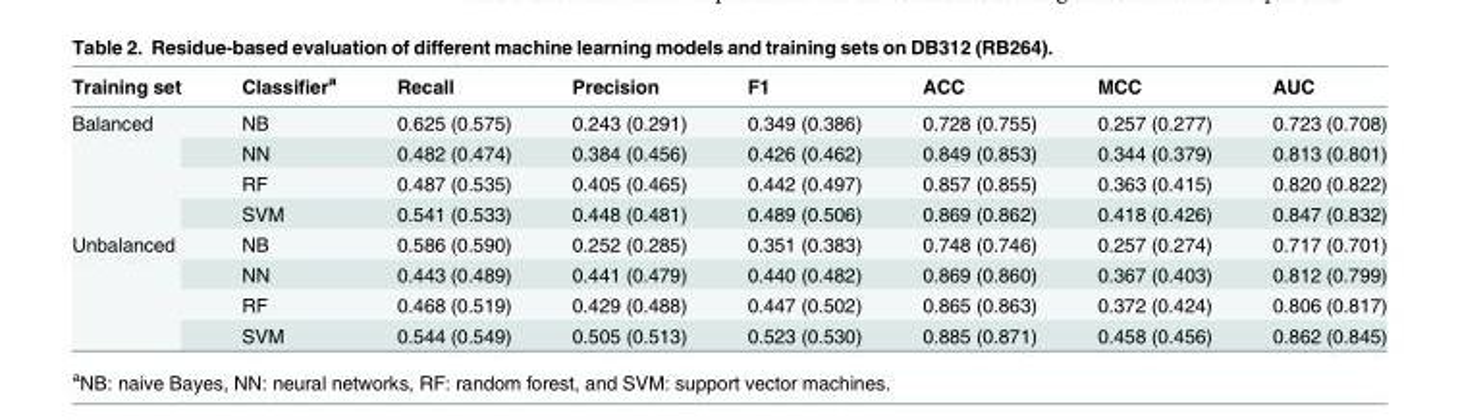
<table><thead><tr><td>Training set</td><td>Classifier<sup>a</sup></td><td>Recall</td><td>Precision</td><td>F1</td><td>ACC</td><td>MCC</td><td>AUC</td></tr></thead><tbody><tr><td rowspan="4">Balanced</td><td>NB</td><td>0.625 (0.575)</td><td>0.243 (0.291)</td><td>0.349 (0.386)</td><td>0.728 (0.755)</td><td>0.257 (0.277)</td><td>0.723 (0.708)</td></tr><tr><td>NN</td><td>0.482 (0.474)</td><td>0.384 (0.456)</td><td>0.426 (0.462)</td><td>0.849 (0.853)</td><td>0.344 (0.379)</td><td>0.813 (0.801)</td></tr><tr><td>RF</td><td>0.487 (0.535)</td><td>0.405 (0.465)</td><td>0.442 (0.497)</td><td>0.857 (0.855)</td><td>0.363 (0.415)</td><td>0.820 (0.822)</td></tr><tr><td>SVM</td><td>0.541 (0.533)</td><td>0.448 (0.481)</td><td>0.489 (0.506)</td><td>0.869 (0.862)</td><td>0.418 (0.426)</td><td>0.847 (0.832)</td></tr><tr><td rowspan="4">Unbalanced</td><td>NB</td><td>0.586 (0.590)</td><td>0.252 (0.285)</td><td>0.351 (0.383)</td><td>0.748 (0.746)</td><td>0.257 (0.274)</td><td>0.717 (0.701)</td></tr><tr><td>NN</td><td>0.443 (0.489)</td><td>0.441 (0.479)</td><td>0.440 (0.482)</td><td>0.869 (0.860)</td><td>0.367 (0.403)</td><td>0.812 (0.799)</td></tr><tr><td>RF</td><td>0.468 (0.519)</td><td>0.429 (0.488)</td><td>0.447 (0.502)</td><td>0.865 (0.863)</td><td>0.372 (0.424)</td><td>0.806 (0.817)</td></tr><tr><td>SVM</td><td>0.544 (0.549)</td><td>0.505 (0.513)</td><td>0.523 (0.530)</td><td>0.885 (0.871)</td><td>0.458 (0.456)</td><td>0.862 (0.845)</td></tr></tbody></table>